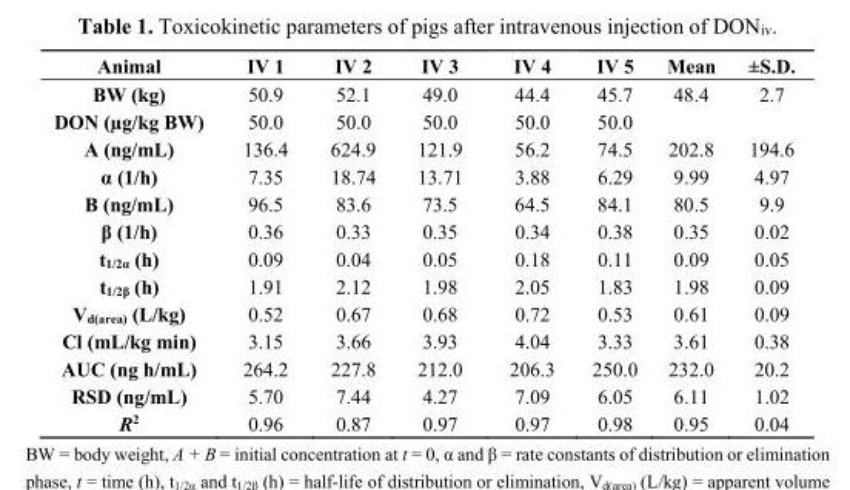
<table><thead><tr><td>Animal</td><td>IV 1</td><td>IV 2</td><td>IV 3</td><td>IV 4</td><td>IV 5</td><td>Mean</td><td>±S.D.</td></tr></thead><tbody><tr><td>BW (kg)</td><td>50.9</td><td>52.1</td><td>49.0</td><td>44.4</td><td>45.7</td><td>48.4</td><td>2.7</td></tr><tr><td>DON (µg/kg BW)</td><td>50.0</td><td>50.0</td><td>50.0</td><td>50.0</td><td>50.0</td><td></td><td></td></tr><tr><td>A (ng/mL)</td><td>136.4</td><td>624.9</td><td>121.9</td><td>56.2</td><td>74.5</td><td>202.8</td><td>194.6</td></tr><tr><td>α (1/h)</td><td>7.35</td><td>18.74</td><td>13.71</td><td>3.88</td><td>6.29</td><td>9.99</td><td>4.97</td></tr><tr><td>B (ng/mL)</td><td>96.5</td><td>83.6</td><td>73.5</td><td>64.5</td><td>84.1</td><td>80.5</td><td>9.9</td></tr><tr><td>β (1/h)</td><td>0.36</td><td>0.33</td><td>0.35</td><td>0.34</td><td>0.38</td><td>0.35</td><td>0.02</td></tr><tr><td>t<sub>1/2α</sub> (h)</td><td>0.09</td><td>0.04</td><td>0.05</td><td>0.18</td><td>0.11</td><td>0.09</td><td>0.05</td></tr><tr><td>t<sub>1/2β</sub> (h)</td><td>1.91</td><td>2.12</td><td>1.98</td><td>2.05</td><td>1.83</td><td>1.98</td><td>0.09</td></tr><tr><td>V<sub>d(area)</sub> (L/kg)</td><td>0.52</td><td>0.67</td><td>0.68</td><td>0.72</td><td>0.53</td><td>0.61</td><td>0.09</td></tr><tr><td>Cl (mL/kg min)</td><td>3.15</td><td>3.66</td><td>3.93</td><td>4.04</td><td>3.33</td><td>3.61</td><td>0.38</td></tr><tr><td>AUC (ng h/mL)</td><td>264.2</td><td>227.8</td><td>212.0</td><td>206.3</td><td>250.0</td><td>232.0</td><td>20.2</td></tr><tr><td>RSD (ng/mL)</td><td>5.70</td><td>7.44</td><td>4.27</td><td>7.09</td><td>6.05</td><td>6.11</td><td>1.02</td></tr><tr><td>R<sup>2</sup></td><td>0.96</td><td>0.87</td><td>0.97</td><td>0.97</td><td>0.98</td><td>0.95</td><td>0.04</td></tr></tbody></table>